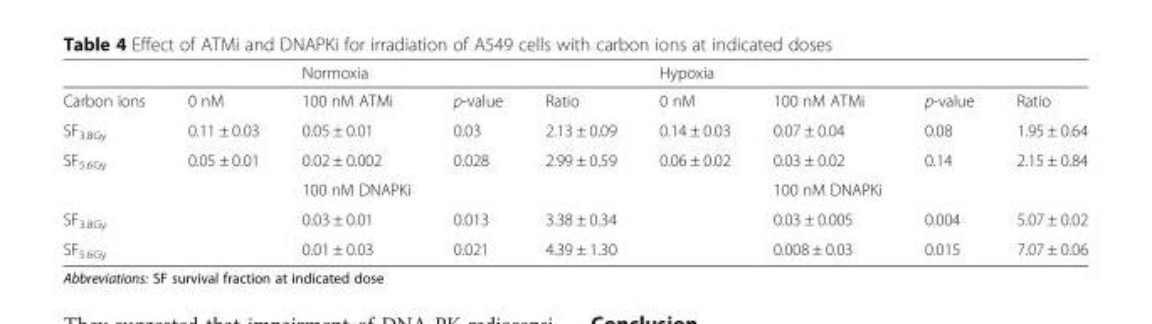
<table><thead><tr><td rowspan="2">Carbon ions</td><td rowspan="2">0 nM</td><td colspan="3">Normoxia</td><td colspan="4">Hypoxia</td></tr><tr><td>100 nM ATMi</td><td>p-value</td><td>Ratio</td><td>0 nM</td><td>100 nM ATMi</td><td>p-value</td><td>Ratio</td></tr></thead><tbody><tr><td>SF<sub>3.8Gy</sub></td><td>0.11 ± 0.03</td><td>0.05 ± 0.01</td><td>0.03</td><td>2.13 ± 0.09</td><td>0.14 ± 0.03</td><td>0.07 ± 0.04</td><td>0.08</td><td>1.95 ± 0.64</td></tr><tr><td rowspan="2">SF<sub>5.6Gy</sub></td><td>0.05 ± 0.01</td><td>0.02 ± 0.002</td><td>0.028</td><td>2.99 ± 0.59</td><td>0.06 ± 0.02</td><td>0.03 ± 0.02</td><td>0.14</td><td>2.15 ± 0.84</td></tr><tr><td></td><td>100 nM DNAPKi</td><td></td><td></td><td></td><td>100 nM DNAPKi</td><td></td><td></td></tr><tr><td>SF<sub>3.8Gy</sub></td><td></td><td>0.03 ± 0.01</td><td>0.013</td><td>3.38 ± 0.34</td><td></td><td>0.03 ± 0.005</td><td>0.004</td><td>5.07 ± 0.02</td></tr><tr><td>SF<sub>5.6Gy</sub></td><td></td><td>0.01 ± 0.03</td><td>0.021</td><td>4.39 ± 1.30</td><td></td><td>0.008 ± 0.03</td><td>0.015</td><td>7.07 ± 0.06</td></tr></tbody></table>